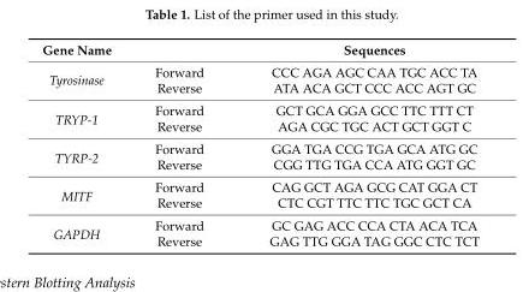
<table><thead><tr><td>Gene Name</td><td></td><td>Sequences</td></tr></thead><tbody><tr><td rowspan="2">Tyrosinase</td><td>Forward</td><td>CCC AGA AGC CAA TGC ACC TA</td></tr><tr><td>Reverse</td><td>ATA ACA GCT CCC ACC AGT GC</td></tr><tr><td rowspan="2">TRYP-1</td><td>Forward</td><td>GCT GCA GGA GCC TTC TTT CT</td></tr><tr><td>Reverse</td><td>AGA CGC TGC ACT GCT GGT C</td></tr><tr><td rowspan="2">TYRP-2</td><td>Forward</td><td>GGA TGA CCG TGA GCA ATG GC</td></tr><tr><td>Reverse</td><td>CGG TTG TGA CCA ATG GGT GC</td></tr><tr><td rowspan="2">MITF</td><td>Forward</td><td>CAG GCT AGA GCG CAT GGA CT</td></tr><tr><td>Reverse</td><td>CTC CGT TTC TTC TGC GCT CA</td></tr><tr><td rowspan="2">GAPDH</td><td>Forward</td><td>GC GAG ACC CCA CTA ACA TCA</td></tr><tr><td>Reverse</td><td>GAG TTG GGA TAG GGC CTC TCT</td></tr></tbody></table>